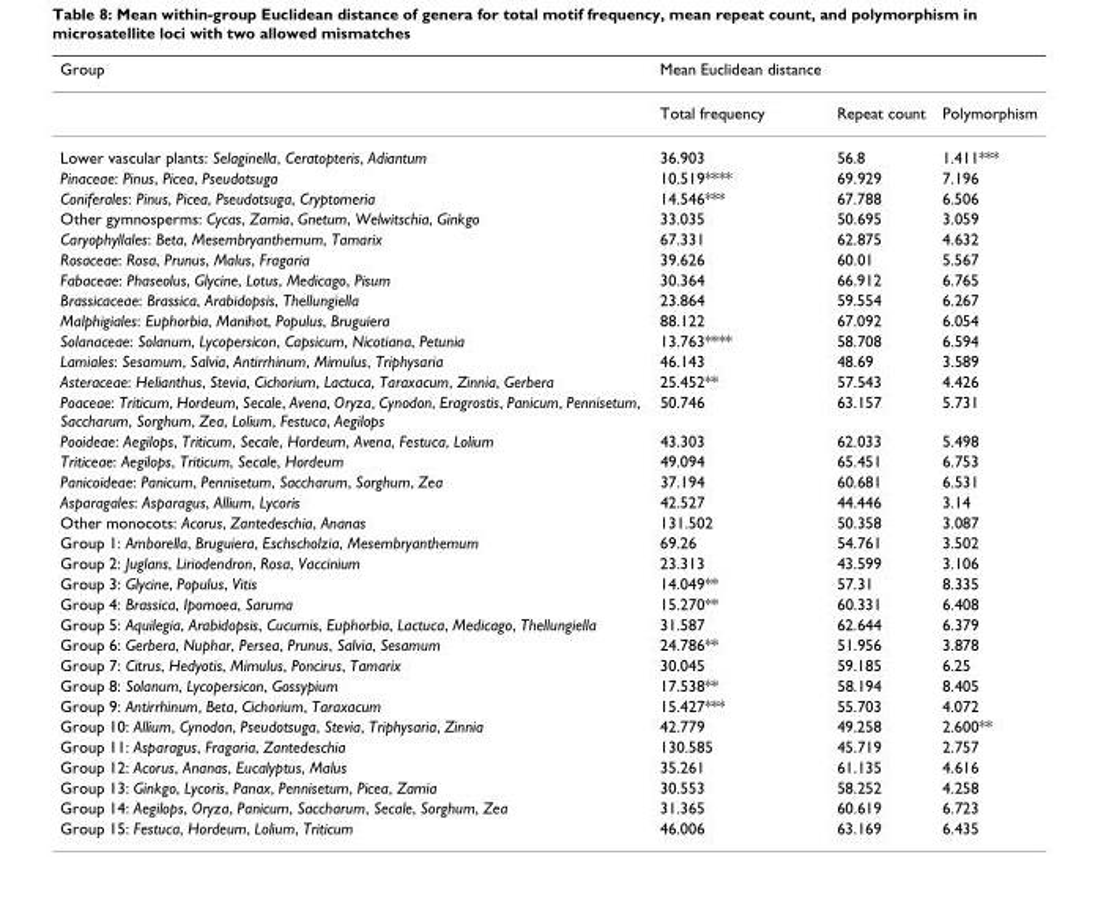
<table><thead><tr><td>Group</td><td>Mean Euclidean distance</td><td></td><td></td></tr></thead><tbody><tr><td></td><td>Total frequency</td><td>Repeat count</td><td>Polymorphism</td></tr><tr><td>Lower vascular plants: Selaginella, Ceratopteris, Adiantum</td><td>36.903</td><td>56.8</td><td>1.411***</td></tr><tr><td>Pinaceae: Pinus, Picea, Pseudotsuga</td><td>10.519****</td><td>69.929</td><td>7.196</td></tr><tr><td>Coniferales: Pinus, Picea, Pseudotsuga, Cryptomeria</td><td>14.546***</td><td>67.788</td><td>6.506</td></tr><tr><td>Other gymnosperms: Cycas, Zamia, Gnetum, Welwitschia, Ginkgo</td><td>33.035</td><td>50.695</td><td>3.059</td></tr><tr><td>Caryophyllales: Beta, Mesembryanthemum, Tamarix</td><td>67.331</td><td>62.875</td><td>4.632</td></tr><tr><td>Rosaceae: Rosa, Prunus, Malus, Fragaria</td><td>39.626</td><td>60.01</td><td>5.567</td></tr><tr><td>Fabaceae: Phaseolus, Glycine, Lotus, Medicago, Pisum</td><td>30.364</td><td>66.912</td><td>6.765</td></tr><tr><td>Brassicaceae: Brassica, Arabidopsis, Thellungiella</td><td>23.864</td><td>59.554</td><td>6.267</td></tr><tr><td>Malphigiales: Euphorbia, Manihot, Populus, Bruguiera</td><td>88.122</td><td>67.092</td><td>6.054</td></tr><tr><td>Solanaceae: Solanum, Lycopersicon, Capsicum, Nicotiana, Petunia</td><td>13.763****</td><td>58.708</td><td>6.594</td></tr><tr><td>Lamiales: Sesamum, Salvia, Antirrhinum, Mimulus, Triphysaria</td><td>46.143</td><td>48.69</td><td>3.589</td></tr><tr><td>Asteraceae: Helianthus, Stevia, Cichorium, Lactuca, Taraxacum, Zinnia, Gerbera</td><td>25.452**</td><td>57.543</td><td>4.426</td></tr><tr><td>Poaceae: Triticum, Hordeum, Secale, Avena, Oryza, Cynodon, Eragrostis, Panicum, Pennisetum, Saccharum, Sorghum, Zea, Lolium, Festuca, Aegilops</td><td>50.746</td><td>63.157</td><td>5.731</td></tr><tr><td>Pooideae: Aegilops, Triticum, Secale, Hordeum, Avena, Festuca, Lolium</td><td>43.303</td><td>62.033</td><td>5.498</td></tr><tr><td>Triticeae: Aegilops, Triticum, Secale, Hordeum</td><td>49.094</td><td>65.451</td><td>6.753</td></tr><tr><td>Panicoideae: Panicum, Pennisetum, Saccharum, Sorghum, Zea</td><td>37.194</td><td>60.681</td><td>6.531</td></tr><tr><td>Asparagales: Asparagus, Allium, Lycoris</td><td>42.527</td><td>44.446</td><td>3.14</td></tr><tr><td>Other monocots: Acorus, Zantedeschia, Ananas</td><td>131.502</td><td>50.358</td><td>3.087</td></tr><tr><td>Group 1: Amborella, Bruguiera, Eschscholzia, Mesembryanthemum</td><td>69.26</td><td>54.761</td><td>3.502</td></tr><tr><td>Group 2: Juglans, Liriodendron, Rosa, Vaccinium</td><td>23.313</td><td>43.599</td><td>3.106</td></tr><tr><td>Group 3: Glycine, Populus, Vitis</td><td>14.049**</td><td>57.31</td><td>8.335</td></tr><tr><td>Group 4: Brassica, Ipomoea, Saruma</td><td>15.270**</td><td>60.331</td><td>6.408</td></tr><tr><td>Group 5: Aquilegia, Arabidopsis, Cucumis, Euphorbia, Lactuca, Medicago, Thellungiella</td><td>31.587</td><td>62.644</td><td>6.379</td></tr><tr><td>Group 6: Gerbera, Nuphar, Persea, Prunus, Salvia, Sesamum</td><td>24.786**</td><td>51.956</td><td>3.878</td></tr><tr><td>Group 7: Citrus, Hedyotis, Mimulus, Poncirus, Tamarix</td><td>30.045</td><td>59.185</td><td>6.25</td></tr><tr><td>Group 8: Solanum, Lycopersicon, Gossypium</td><td>17.538**</td><td>58.194</td><td>8.405</td></tr><tr><td>Group 9: Antirrhinum, Beta, Cichorium, Taraxacum</td><td>15.427***</td><td>55.703</td><td>4.072</td></tr><tr><td>Group 10: Allium, Cynodon, Pseudotsuga, Stevia, Triphysaria, Zinnia</td><td>42.779</td><td>49.258</td><td>2.600**</td></tr><tr><td>Group 11: Asparagus, Fragaria, Zantedeschia</td><td>130.585</td><td>45.719</td><td>2.757</td></tr><tr><td>Group 12: Acorus, Ananas, Eucalyptus, Malus</td><td>35.261</td><td>61.135</td><td>4.616</td></tr><tr><td>Group 13: Ginkgo, Lycoris, Panax, Pennisetum, Picea, Zamia</td><td>30.553</td><td>58.252</td><td>4.258</td></tr><tr><td>Group 14: Aegilops, Oryza, Panicum, Saccharum, Secale, Sorghum, Zea</td><td>31.365</td><td>60.619</td><td>6.723</td></tr><tr><td>Group 15: Festuca, Hordeum, Lolium, Triticum</td><td>46.006</td><td>63.169</td><td>6.435</td></tr></tbody></table>